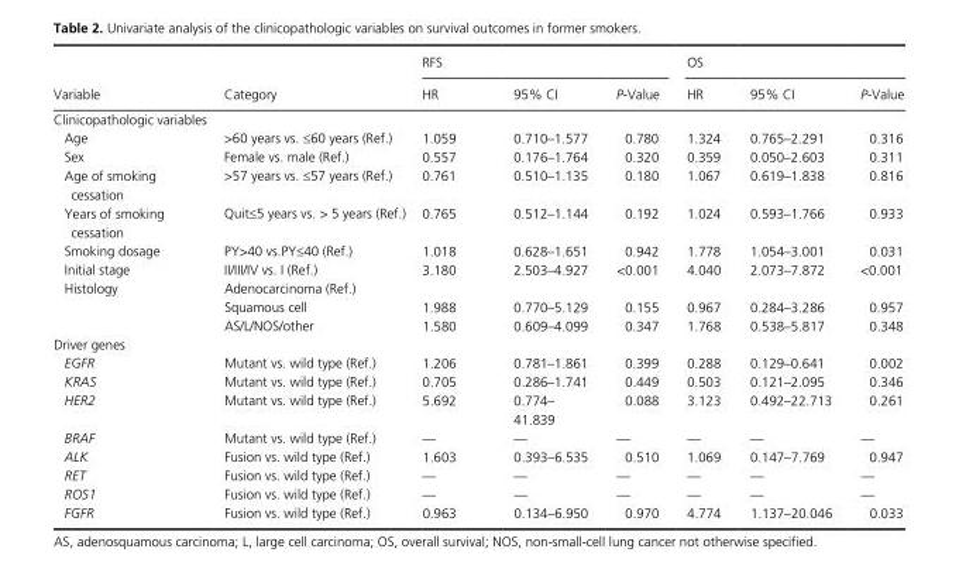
<table><thead><tr><td rowspan="2">Variable</td><td rowspan="2">Category</td><td colspan="3">RFS</td><td colspan="3">OS</td></tr><tr><td>HR</td><td>95% CI</td><td>P- Value</td><td>HR</td><td>95% CI</td><td>P- Value</td></tr></thead><tbody><tr><td colspan="8">Clinicopathologic variables</td></tr><tr><td>Age</td><td>&gt;60 years vs. ≤60 years (Ref.)</td><td>1.059</td><td>0.710–1.577</td><td>0.780</td><td>1.324</td><td>0.765–2.291</td><td>0.316</td></tr><tr><td>Sex</td><td>Female vs. male (Ref.)</td><td>0.557</td><td>0.176–1.764</td><td>0.320</td><td>0.359</td><td>0.050–2.603</td><td>0.311</td></tr><tr><td>Age of smoking cessation</td><td>&gt;57 years vs. ≤57 years (Ref.)</td><td>0.761</td><td>0.510–1.135</td><td>0.180</td><td>1.067</td><td>0.619–1.838</td><td>0.816</td></tr><tr><td>Years of smoking cessation</td><td>Quit≤5 years vs. &gt; 5 years (Ref.)</td><td>0.765</td><td>0.512–1.144</td><td>0.192</td><td>1.024</td><td>0.593–1.766</td><td>0.933</td></tr><tr><td>Smoking dosage</td><td>PY&gt;40 vs.PY≤40 (Ref.)</td><td>1.018</td><td>0.628–1.651</td><td>0.942</td><td>1.778</td><td>1.054–3.001</td><td>0.031</td></tr><tr><td>Initial stage</td><td>II/III/IV vs. I (Ref.)</td><td>3.180</td><td>2.503–4.927</td><td>&lt;0.001</td><td>4.040</td><td>2.073–7.872</td><td>&lt;0.001</td></tr><tr><td rowspan="3">Histology</td><td>Adenocarcinoma (Ref.)</td><td></td><td></td><td></td><td></td><td></td><td></td></tr><tr><td>Squamous cell</td><td>1.988</td><td>0.770–5.129</td><td>0.155</td><td>0.967</td><td>0.284–3.286</td><td>0.957</td></tr><tr><td>AS/L/NOS/other</td><td>1.580</td><td>0.609–4.099</td><td>0.347</td><td>1.768</td><td>0.538–5.817</td><td>0.348</td></tr><tr><td colspan="8">Driver genes</td></tr><tr><td>EGFR</td><td>Mutant vs. wild type (Ref.)</td><td>1.206</td><td>0.781–1.861</td><td>0.399</td><td>0.288</td><td>0.129–0.641</td><td>0.002</td></tr><tr><td>KRAS</td><td>Mutant vs. wild type (Ref.)</td><td>0.705</td><td>0.286–1.741</td><td>0.449</td><td>0.503</td><td>0.121–2.095</td><td>0.346</td></tr><tr><td>HER2</td><td>Mutant vs. wild type (Ref.)</td><td>5.692</td><td>0.774– 41.839</td><td>0.088</td><td>3.123</td><td>0.492–22.713</td><td>0.261</td></tr><tr><td>BRAF</td><td>Mutant vs. wild type (Ref.)</td><td>—</td><td>—</td><td>—</td><td>—</td><td>—</td><td>—</td></tr><tr><td>ALK</td><td>Fusion vs. wild type (Ref.)</td><td>1.603</td><td>0.393–6.535</td><td>0.510</td><td>1.069</td><td>0.147–7.769</td><td>0.947</td></tr><tr><td>RET</td><td>Fusion vs. wild type (Ref.)</td><td>—</td><td>—</td><td>—</td><td>—</td><td>—</td><td>—</td></tr><tr><td>ROS1</td><td>Fusion vs. wild type (Ref.)</td><td>—</td><td>—</td><td>—</td><td>—</td><td>—</td><td>—</td></tr><tr><td>FGFR</td><td>Fusion vs. wild type (Ref.)</td><td>0.963</td><td>0.134–6.950</td><td>0.970</td><td>4.774</td><td>1.137–20.046</td><td>0.033</td></tr></tbody></table>